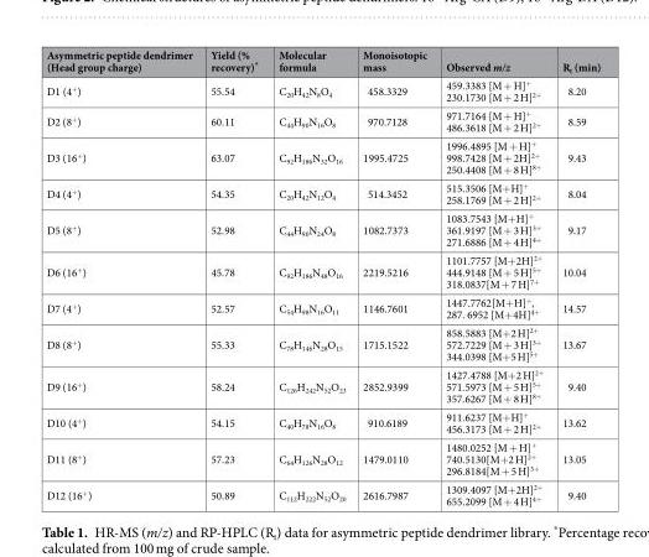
<table><thead><tr><td>Asymmetric peptide dendrimer (Head group charge)</td><td>Yield (% recovery)*</td><td>Molecular formula</td><td>Monoisotopic mass</td><td>Observed m/z</td><td>R<sub>t</sub> (min)</td></tr></thead><tbody><tr><td>D1 (4<sup>+</sup>)</td><td>55.54</td><td>C<sub>20</sub>H<sub>42</sub>N<sub>8</sub>O<sub>4</sub></td><td>458.3329</td><td>459.3383 [M + H]<sup>+</sup> 230.1730 [M + 2 H]<sup>2+</sup></td><td>8.20</td></tr><tr><td>D2 (8<sup>+</sup>)</td><td>60.11</td><td>C<sub>44</sub>H<sub>90</sub>N<sub>16</sub>O<sub>8</sub></td><td>970.7128</td><td>971.7164 [M + H]<sup>+</sup> 486.3618 [M + 2 H]<sup>2+</sup></td><td>8.59</td></tr><tr><td>D3 (16<sup>+</sup>)</td><td>63.07</td><td>C<sub>92</sub>H<sub>186</sub>N<sub>32</sub>O<sub>16</sub></td><td>1995.4725</td><td>1996.4895 [M + H]<sup>+</sup> 998.7428 [M + 2H]<sup>2+</sup> 250.4408 [M + 8 H]<sup>8+</sup></td><td>9.43</td></tr><tr><td>D4 (4<sup>+</sup>)</td><td>54.35</td><td>C<sub>20</sub>H<sub>42</sub>N<sub>12</sub>O<sub>4</sub></td><td>514.3452</td><td>515.3506 [M+H]<sup>+</sup> 258.1769 [M + 2 H]<sup>2+</sup></td><td>8.04</td></tr><tr><td>D5 (8<sup>+</sup>)</td><td>52.98</td><td>C<sub>44</sub>H<sub>90</sub>N<sub>24</sub>O<sub>8</sub></td><td>1082.7373</td><td>1083.7543 [M+H]<sup>+</sup> 361.9197 [M + 3 H]<sup>3+</sup> 271.6886 [M + 4 H]<sup>4+</sup></td><td>9.17</td></tr><tr><td>D6 (16<sup>+</sup>)</td><td>45.78</td><td>C<sub>92</sub>H<sub>186</sub>N<sub>48</sub>O<sub>16</sub></td><td>2219.5216</td><td>1101.7757 [M+2H]<sup>2+</sup> 444.9148 [M + 5 H]<sup>5+</sup> 318.0837[M + 7 H]<sup>7+</sup></td><td>10.04</td></tr><tr><td>D7 (4<sup>+</sup>)</td><td>52.57</td><td>C<sub>54</sub>H<sub>98</sub>N<sub>16</sub>O<sub>11</sub></td><td>1146.7601</td><td>1447.7762[M+H]<sup>+</sup>, 287. 6952 [M+4H]<sup>4+</sup></td><td>14.57</td></tr><tr><td>D8 (8<sup>+</sup>)</td><td>55.33</td><td>C<sub>78</sub>H<sub>146</sub>N<sub>28</sub>O<sub>15</sub></td><td>1715.1522</td><td>858.5883 [M+2 H]<sup>2+</sup> 572.7229 [M + 3 H]<sup>3+</sup> 344.0398 [M+5 H]<sup>5+</sup></td><td>13.67</td></tr><tr><td>D9 (16<sup>+</sup>)</td><td>58.24</td><td>C<sub>126</sub>H<sub>242</sub>N<sub>52</sub>O<sub>23</sub></td><td>2852.9399</td><td>1427.4788 [M+2 H]<sup>2+</sup> 571.5973 [M + 5 H]<sup>5+</sup> 357.6267 [M + 8 H]<sup>8+</sup></td><td>9.40</td></tr><tr><td>D10 (4<sup>+</sup>)</td><td>54.15</td><td>C<sub>40</sub>H<sub>78</sub>N<sub>16</sub>O<sub>8</sub></td><td>910.6189</td><td>911.6237 [M+H]<sup>+</sup> 456.3173 [M + 2 H]<sup>2+</sup></td><td>13.62</td></tr><tr><td>D11 (8<sup>+</sup>)</td><td>57.23</td><td>C<sub>64</sub>H<sub>126</sub>N<sub>28</sub>O<sub>12</sub></td><td>1479.0110</td><td>1480.0252 [M + H]<sup>+</sup> 740.5130[M+2 H]<sup>2+</sup> 296.8184[M + 5 H]<sup>5+</sup></td><td>13.05</td></tr><tr><td>D12 (16<sup>+</sup>)</td><td>50.89</td><td>C<sub>112</sub>H<sub>222</sub>N<sub>52</sub>O<sub>20</sub></td><td>2616.7987</td><td>1309.4097 [M+2H]<sup>2+</sup> 655.2099 [M + 4 H]<sup>4+</sup></td><td>9.40</td></tr></tbody></table>